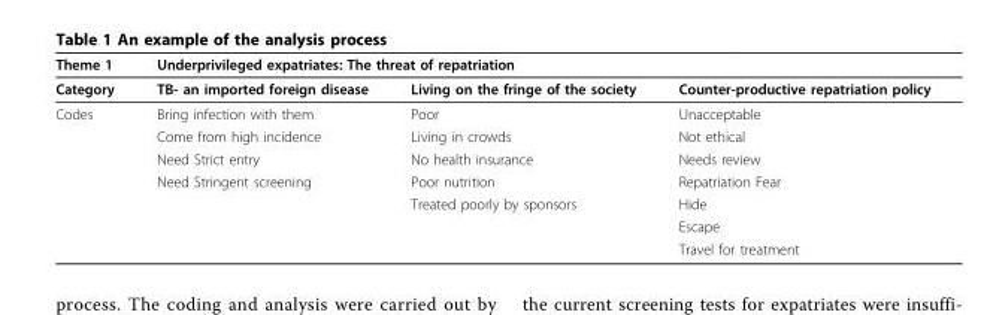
<table><thead><tr><td rowspan="2">Theme 1 Category</td><td colspan="3">Underprivileged expatriates: The threat of repatriation</td></tr><tr><td>TB- an imported foreign disease</td><td>Living on the fringe of the society</td><td>Counter-productive repatriation policy</td></tr></thead><tbody><tr><td rowspan="7">Codes</td><td>Bring infection with them</td><td>Poor</td><td>Unacceptable</td></tr><tr><td>Come from high incidence</td><td>Living in crowds</td><td>Not ethical</td></tr><tr><td>Need Strict entry</td><td>No health insurance</td><td>Needs review</td></tr><tr><td>Need Stringent screening</td><td>Poor nutrition</td><td>Repatriation Fear</td></tr><tr><td></td><td>Treated poorly by sponsors</td><td>Hide</td></tr><tr><td></td><td></td><td>Escape</td></tr><tr><td></td><td></td><td>Travel for treatment</td></tr></tbody></table>